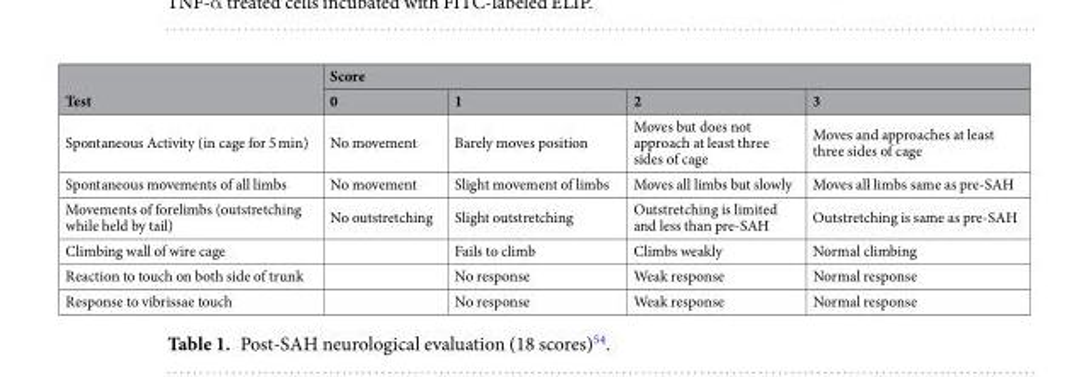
<table><thead><tr><td rowspan="2">Test</td><td colspan="4">Score</td></tr><tr><td>0</td><td>1</td><td>2</td><td>3</td></tr></thead><tbody><tr><td>Spontaneous Activity (in cage for 5 min)</td><td>No movement</td><td>Barely moves position</td><td>Moves but does not approach at least three sides of cage</td><td>Moves and approaches at least three sides of cage</td></tr><tr><td>Spontaneous movements of all limbs</td><td>No movement</td><td>Slight movement of limbs</td><td>Moves all limbs but slowly</td><td>Moves all limbs same as pre-SAH</td></tr><tr><td>Movements of forelimbs (outstretching while held by tail)</td><td>No outstretching</td><td>Slight outstretching</td><td>Outstretching is limited and less than pre-SAH</td><td>Outstretching is same as pre-SAH</td></tr><tr><td>Climbing wall of wire cage</td><td></td><td>Fails to climb</td><td>Climbs weakly</td><td>Normal climbing</td></tr><tr><td>Reaction to touch on both side of trunk</td><td></td><td>No response</td><td>Weak response</td><td>Normal response</td></tr><tr><td>Response to vibrissae touch</td><td></td><td>No response</td><td>Weak response</td><td>Normal response</td></tr></tbody></table>